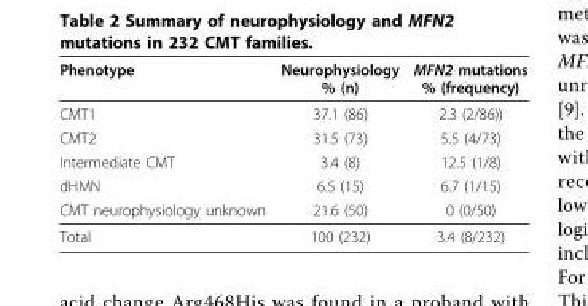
<table><thead><tr><td>Phenotype</td><td>Neurophysiology % (n)</td><td>MFN2 mutations % (frequency)</td></tr></thead><tbody><tr><td>CMT1</td><td>37.1 (86)</td><td>2.3 (2/86))</td></tr><tr><td>CMT2</td><td>31.5 (73)</td><td>5.5 (4/73)</td></tr><tr><td>Intermediate CMT</td><td>3.4 (8)</td><td>12.5 (1/8)</td></tr><tr><td>dHMN</td><td>6.5 (15)</td><td>6.7 (1/15)</td></tr><tr><td>CMT neurophysiology unknown</td><td>21.6 (50)</td><td>0 (0/50)</td></tr><tr><td>Total</td><td>100 (232)</td><td>3.4 (8/232)</td></tr></tbody></table>